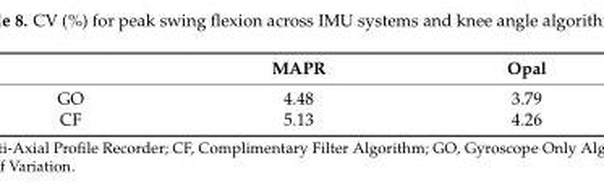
<table><thead><tr><td></td><td>MAPR</td><td>Opal</td></tr></thead><tbody><tr><td>GO</td><td>4.48</td><td>3.79</td></tr><tr><td>CF</td><td>5.13</td><td>4.26</td></tr></tbody></table>